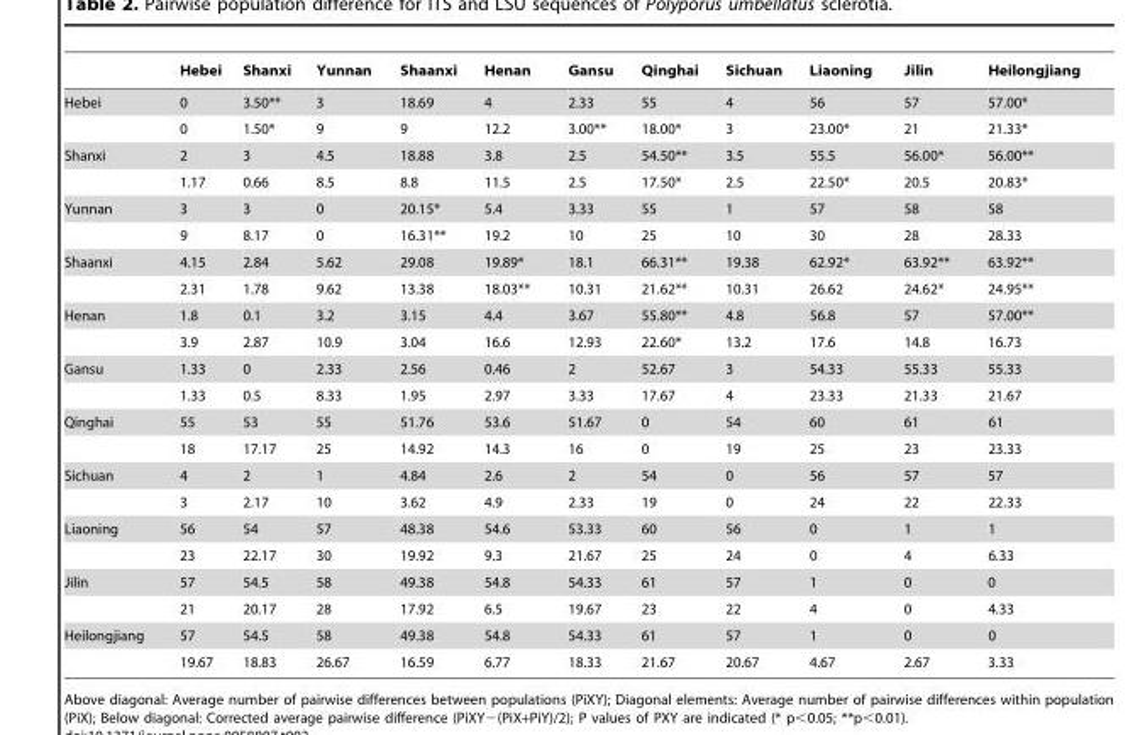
<table><thead><tr><td></td><td>Hebei</td><td>Shanxi</td><td>Yunnan</td><td>Shaanxi</td><td>Henan</td><td>Gansu</td><td>Qinghai</td><td>Sichuan</td><td>Liaoning</td><td>Jilin</td><td>Heilongjiang</td></tr></thead><tbody><tr><td rowspan="2">Hebei</td><td>0</td><td>3.50**</td><td>3</td><td>18.69</td><td>4</td><td>2.33</td><td>55</td><td>4</td><td>56</td><td>57</td><td>57.00*</td></tr><tr><td>0</td><td>1.50*</td><td>9</td><td>9</td><td>12.2</td><td>3.00**</td><td>18.00*</td><td>3</td><td>23.00*</td><td>21</td><td>21.33*</td></tr><tr><td rowspan="2">Shanxi</td><td>2</td><td>3</td><td>4.5</td><td>18.88</td><td>3.8</td><td>2.5</td><td>54.50**</td><td>3.5</td><td>55.5</td><td>56.00*</td><td>56.00**</td></tr><tr><td>1.17</td><td>0.66</td><td>8.5</td><td>8.8</td><td>11.5</td><td>2.5</td><td>17.50*</td><td>2.5</td><td>22.50*</td><td>20.5</td><td>20.83*</td></tr><tr><td rowspan="2">Yunnan</td><td>3</td><td>3</td><td>0</td><td>20.15*</td><td>5.4</td><td>3.33</td><td>55</td><td>1</td><td>57</td><td>58</td><td>58</td></tr><tr><td>9</td><td>8.17</td><td>0</td><td>16.31**</td><td>19.2</td><td>10</td><td>25</td><td>10</td><td>30</td><td>28</td><td>28.33</td></tr><tr><td rowspan="2">Shaanxi</td><td>4.15</td><td>2.84</td><td>5.62</td><td>29.08</td><td>19.89*</td><td>18.1</td><td>66.31**</td><td>19.38</td><td>62.92*</td><td>63.92**</td><td>63.92**</td></tr><tr><td>2.31</td><td>1.78</td><td>9.62</td><td>13.38</td><td>18.03**</td><td>10.31</td><td>21.62**</td><td>10.31</td><td>26.62</td><td>24.62*</td><td>24.95**</td></tr><tr><td rowspan="2">Henan</td><td>1.8</td><td>0.1</td><td>3.2</td><td>3.15</td><td>4.4</td><td>3.67</td><td>55.80**</td><td>4.8</td><td>56.8</td><td>57</td><td>57.00**</td></tr><tr><td>3.9</td><td>2.87</td><td>10.9</td><td>3.04</td><td>16.6</td><td>12.93</td><td>22.60*</td><td>13.2</td><td>17.6</td><td>14.8</td><td>16.73</td></tr><tr><td rowspan="2">Gansu</td><td>1.33</td><td>0</td><td>2.33</td><td>2.56</td><td>0.46</td><td>2</td><td>52.67</td><td>3</td><td>54.33</td><td>55.33</td><td>55.33</td></tr><tr><td>1.33</td><td>0.5</td><td>8.33</td><td>1.95</td><td>2.97</td><td>3.33</td><td>17.67</td><td>4</td><td>23.33</td><td>21.33</td><td>21.67</td></tr><tr><td rowspan="2">Qinghai</td><td>55</td><td>53</td><td>55</td><td>51.76</td><td>53.6</td><td>51.67</td><td>0</td><td>54</td><td>60</td><td>61</td><td>61</td></tr><tr><td>18</td><td>17.17</td><td>25</td><td>14.92</td><td>14.3</td><td>16</td><td>0</td><td>19</td><td>25</td><td>23</td><td>23.33</td></tr><tr><td rowspan="2">Sichuan</td><td>4</td><td>2</td><td>1</td><td>4.84</td><td>2.6</td><td>2</td><td>54</td><td>0</td><td>56</td><td>57</td><td>57</td></tr><tr><td>3</td><td>2.17</td><td>10</td><td>3.62</td><td>4.9</td><td>2.33</td><td>19</td><td>0</td><td>24</td><td>22</td><td>22.33</td></tr><tr><td rowspan="2">Liaoning</td><td>56</td><td>54</td><td>57</td><td>48.38</td><td>54.6</td><td>53.33</td><td>60</td><td>56</td><td>0</td><td>1</td><td>1</td></tr><tr><td>23</td><td>22.17</td><td>30</td><td>19.92</td><td>9.3</td><td>21.67</td><td>25</td><td>24</td><td>0</td><td>4</td><td>6.33</td></tr><tr><td rowspan="2">Jilin</td><td>57</td><td>54.5</td><td>58</td><td>49.38</td><td>54.8</td><td>54.33</td><td>61</td><td>57</td><td>1</td><td>0</td><td>0</td></tr><tr><td>21</td><td>20.17</td><td>28</td><td>17.92</td><td>6.5</td><td>19.67</td><td>23</td><td>22</td><td>4</td><td>0</td><td>4.33</td></tr><tr><td rowspan="2">Heilongjiang</td><td>57</td><td>54.5</td><td>58</td><td>49.38</td><td>54.8</td><td>54.33</td><td>61</td><td>57</td><td>1</td><td>0</td><td>0</td></tr><tr><td>19.67</td><td>18.83</td><td>26.67</td><td>16.59</td><td>6.77</td><td>18.33</td><td>21.67</td><td>20.67</td><td>4.67</td><td>2.67</td><td>3.33</td></tr></tbody></table>